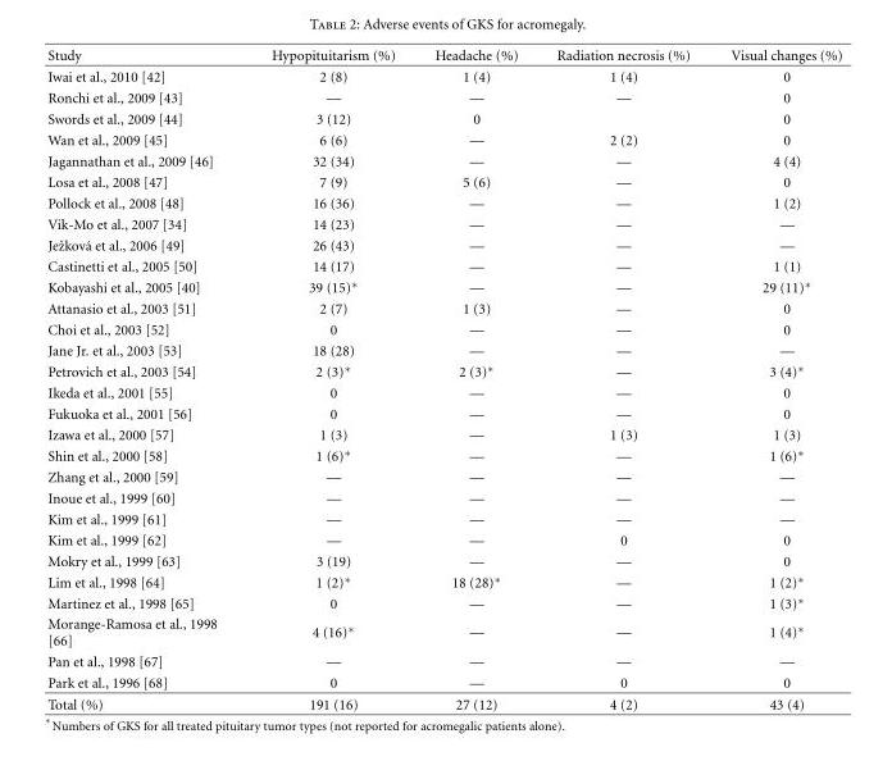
<table><thead><tr><td>Study</td><td>Hypopituitarism (%)</td><td>Headache (%)</td><td>Radiation necrosis (%)</td><td>Visual changes (%)</td></tr></thead><tbody><tr><td>Iwai et al., 2010 [42]</td><td>2 (8)</td><td>1 (4)</td><td>1 (4)</td><td>0</td></tr><tr><td>Ronchi et al., 2009 [43]</td><td>—</td><td>—</td><td>—</td><td>0</td></tr><tr><td>Swords et al., 2009 [44]</td><td>3 (12)</td><td>0</td><td></td><td>0</td></tr><tr><td>Wan et al., 2009 [45]</td><td>6 (6)</td><td>—</td><td>2 (2)</td><td>0</td></tr><tr><td>Jagannathan et al., 2009 [46]</td><td>32 (34)</td><td>—</td><td>—</td><td>4 (4)</td></tr><tr><td>Losa et al., 2008 [47]</td><td>7 (9)</td><td>5 (6)</td><td>—</td><td>0</td></tr><tr><td>Pollock et al., 2008 [48]</td><td>16 (36)</td><td>—</td><td>—</td><td>1 (2)</td></tr><tr><td>Vik-Mo et al., 2007 [34]</td><td>14 (23)</td><td>—</td><td>—</td><td>—</td></tr><tr><td>Jeˇzkov´a et al., 2006 [49]</td><td>26 (43)</td><td>—</td><td>—</td><td>—</td></tr><tr><td>Castinetti et al., 2005 [50]</td><td>14 (17)</td><td>—</td><td>—</td><td>1 (1)</td></tr><tr><td>Kobayashi et al., 2005 [40]</td><td>39 (15)∗</td><td>—</td><td>—</td><td>29 (11)∗</td></tr><tr><td>Attanasio et al., 2003 [51]</td><td>2 (7)</td><td>1 (3)</td><td>—</td><td>0</td></tr><tr><td>Choi et al., 2003 [52]</td><td>0</td><td>—</td><td>—</td><td>0</td></tr><tr><td>Jane Jr. et al., 2003 [53]</td><td>18 (28)</td><td>—</td><td>—</td><td>—</td></tr><tr><td>Petrovich et al., 2003 [54]</td><td>2 (3)∗</td><td>2 (3)∗</td><td>—</td><td>3 (4)∗</td></tr><tr><td>Ikeda et al., 2001 [55]</td><td>0</td><td>—</td><td>—</td><td>0</td></tr><tr><td>Fukuoka et al., 2001 [56]</td><td>0</td><td>—</td><td>—</td><td>0</td></tr><tr><td>Izawa et al., 2000 [57]</td><td>1 (3)</td><td>—</td><td>1 (3)</td><td>1 (3)</td></tr><tr><td>Shin et al., 2000 [58]</td><td>1 (6)∗</td><td>—</td><td>—</td><td>1 (6)∗</td></tr><tr><td>Zhang et al., 2000 [59]</td><td>—</td><td>—</td><td>—</td><td>—</td></tr><tr><td>Inoue et al., 1999 [60]</td><td>—</td><td>—</td><td>—</td><td>—</td></tr><tr><td>Kim et al., 1999 [61]</td><td>—</td><td>—</td><td>—</td><td>—</td></tr><tr><td>Kim et al., 1999 [62]</td><td>—</td><td>—</td><td>0</td><td>0</td></tr><tr><td>Mokry et al., 1999 [63]</td><td>3 (19)</td><td>—</td><td>—</td><td>0</td></tr><tr><td>Lim et al., 1998 [64]</td><td>1 (2)∗</td><td>18 (28)∗</td><td>—</td><td>1 (2)∗</td></tr><tr><td>Martinez et al., 1998 [65]</td><td>0</td><td>—</td><td>—</td><td>1 (3)∗</td></tr><tr><td>Morange-Ramosa et al., 1998 [66]</td><td>4 (16)∗</td><td>—</td><td>—</td><td>1 (4)∗</td></tr><tr><td>Pan et al., 1998 [67]</td><td>—</td><td>—</td><td>—</td><td>—</td></tr><tr><td>Park et al., 1996 [68]</td><td>0</td><td>—</td><td>0</td><td>0</td></tr><tr><td>Total (%)</td><td>191 (16)</td><td>27 (12)</td><td>4 (2)</td><td>43 (4)</td></tr></tbody></table>